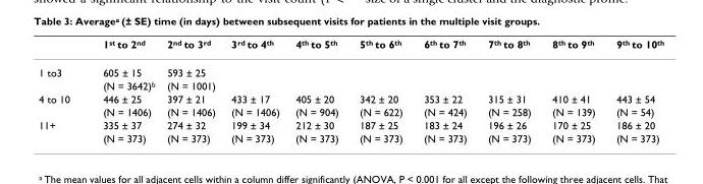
<table><thead><tr><td></td><td>1<sup>st</sup> to 2<sup>nd</sup></td><td>2<sup>nd</sup> to 3<sup>rd</sup></td><td>3<sup>rd</sup> to 4<sup>th</sup></td><td>4<sup>th</sup> to 5<sup>th</sup></td><td>5<sup>th</sup> to 6<sup>th</sup></td><td>6<sup>th</sup> to 7<sup>th</sup></td><td>7<sup>th</sup> to 8<sup>th</sup></td><td>8<sup>th</sup> to 9<sup>th</sup></td><td>9<sup>th</sup> to 10<sup>th</sup></td></tr></thead><tbody><tr><td rowspan="2">1 to3</td><td>605 ± 15</td><td>593 ± 25</td><td></td><td></td><td></td><td></td><td></td><td></td><td></td></tr><tr><td>(N = 3642)<sup>b</sup></td><td>(N = 1001)</td><td></td><td></td><td></td><td></td><td></td><td></td><td></td></tr><tr><td rowspan="2">4 to 10</td><td>446 ± 25</td><td>397 ± 21</td><td>433 ± 17</td><td>405 ± 20</td><td>342 ± 20</td><td>353 ± 22</td><td>315 ± 31</td><td>410 ± 41</td><td>443 ± 54</td></tr><tr><td>(N = 1406)</td><td>(N = 1406)</td><td>(N = 1406)</td><td>(N = 904)</td><td>(N = 622)</td><td>(N = 424)</td><td>(N = 258)</td><td>(N = 139)</td><td>(N = 54)</td></tr><tr><td rowspan="2">11+</td><td>335 ± 37</td><td>274 ± 32</td><td>199 ± 34</td><td>212 ± 30</td><td>187 ± 25</td><td>183 ± 24</td><td>196 ± 26</td><td>170 ± 25</td><td>186 ± 20</td></tr><tr><td>(N = 373)</td><td>(N = 373)</td><td>(N = 373)</td><td>(N = 373)</td><td>(N = 373)</td><td>(N = 373)</td><td>(N = 373)</td><td>(N = 373)</td><td>(N = 373)</td></tr></tbody></table>